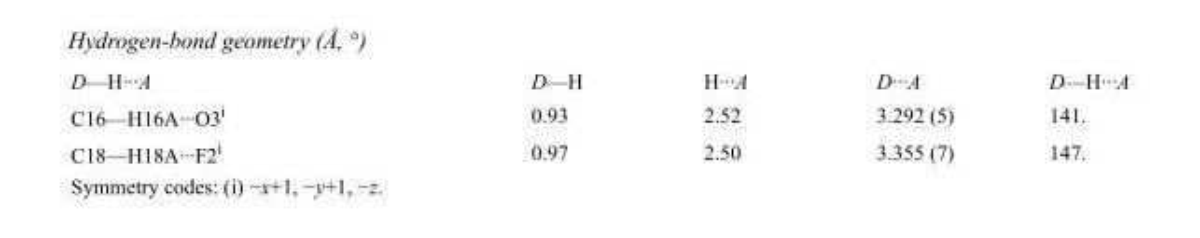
<table><tbody><tr><td>D—H···A</td><td>D—H</td><td>H···A</td><td>D···A</td><td>D—H···A</td></tr><tr><td>C16—H16A···O3<sup>i</sup></td><td>0.93</td><td>2.52</td><td>3.292 (5)</td><td>141.</td></tr><tr><td>C18—H18A···F2<sup>i</sup></td><td>0.97</td><td>2.50</td><td>3.355 (7)</td><td>147.</td></tr></tbody></table>